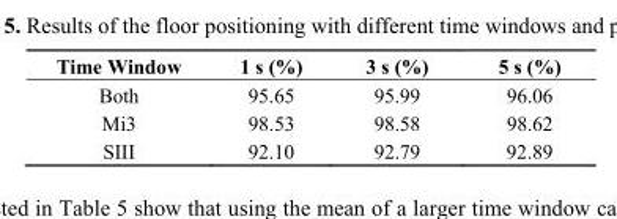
<table><thead><tr><td>Time Window</td><td>1 s (%)</td><td>3 s (%)</td><td>5 s (%)</td></tr></thead><tbody><tr><td>Both</td><td>95.65</td><td>95.99</td><td>96.06</td></tr><tr><td>Mi3</td><td>98.53</td><td>98.58</td><td>98.62</td></tr><tr><td>SIII</td><td>92.10</td><td>92.79</td><td>92.89</td></tr></tbody></table>